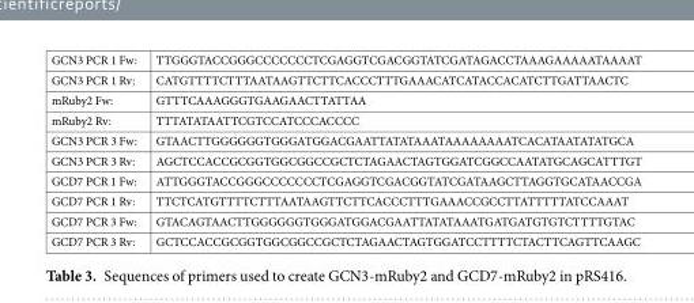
<table><tbody><tr><td>GCN3 PCR 1 Fw:</td><td>TTGGGTACCGGGCCCCCCCTCGAGGTCGACGGTATCGATAGACCTAAAGAAAAATAAAAT</td></tr><tr><td>GCN3 PCR 1 Rv:</td><td>CATGTTTTCTTTAATAAGTTCTTCACCCTTTGAAACATCATACCACATCTTGATTAACTC</td></tr><tr><td>mRuby2 Fw:</td><td>GTTTCAAAGGGTGAAGAACTTATTAA</td></tr><tr><td>mRuby2 Rv:</td><td>TTTATATAATTCGTCCATCCCACCCC</td></tr><tr><td>GCN3 PCR 3 Fw:</td><td>GTAACTTGGGGGGTGGGATGGACGAATTATATAAATAAAAAAAATCACATAATATATGCA</td></tr><tr><td>GCN3 PCR 3 Rv:</td><td>AGCTCCACCGCGGTGGCGGCCGCTCTAGAACTAGTGGATCGGCCAATATGCAGCATTTGT</td></tr><tr><td>GCD7 PCR 1 Fw:</td><td>ATTGGGTACCGGGCCCCCCCTCGAGGTCGACGGTATCGATAAGCTTAGGTGCATAACCGA</td></tr><tr><td>GCD7 PCR 1 Rv:</td><td>TTCTCATGTTTTCTTTAATAAGTTCTTCACCCTTTGAAACCGCCTTATTTTTATCCAAAT</td></tr><tr><td>GCD7 PCR 3 Fw:</td><td>GTACAGTAACTTGGGGGGTGGGATGGACGAATTATATAAATGATGATGTGTCTTTTGTAC</td></tr><tr><td>GCD7 PCR 3 Rv:</td><td>GCTCCACCGCGGTGGCGGCCGCTCTAGAACTAGTGGATCCTTTTCTACTTCAGTTCAAGC</td></tr></tbody></table>